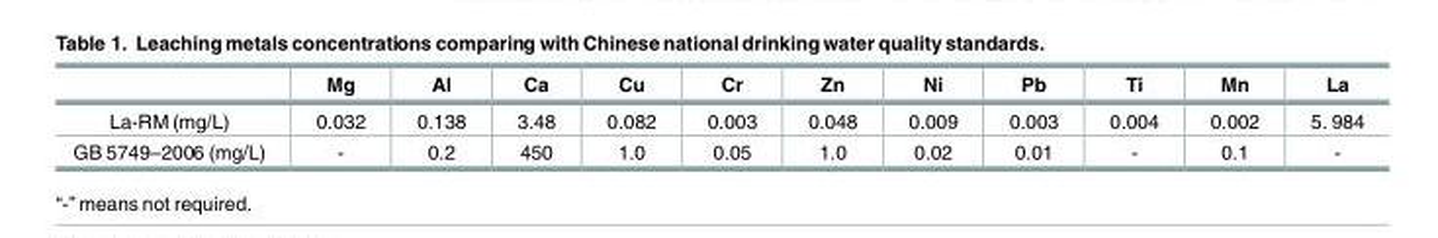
<table><thead><tr><td></td><td>Mg</td><td>Al</td><td>Ca</td><td>Cu</td><td>Cr</td><td>Zn</td><td>Ni</td><td>Pb</td><td>Ti</td><td>Mn</td><td>La</td></tr></thead><tbody><tr><td>La-RM (mg/L)</td><td>0.032</td><td>0.138</td><td>3.48</td><td>0.082</td><td>0.003</td><td>0.048</td><td>0.009</td><td>0.003</td><td>0.004</td><td>0.002</td><td>5. 984</td></tr><tr><td>GB 5749–2006 (mg/L)</td><td>-</td><td>0.2</td><td>450</td><td>1.0</td><td>0.05</td><td>1.0</td><td>0.02</td><td>0.01</td><td>-</td><td>0.1</td><td>-</td></tr></tbody></table>